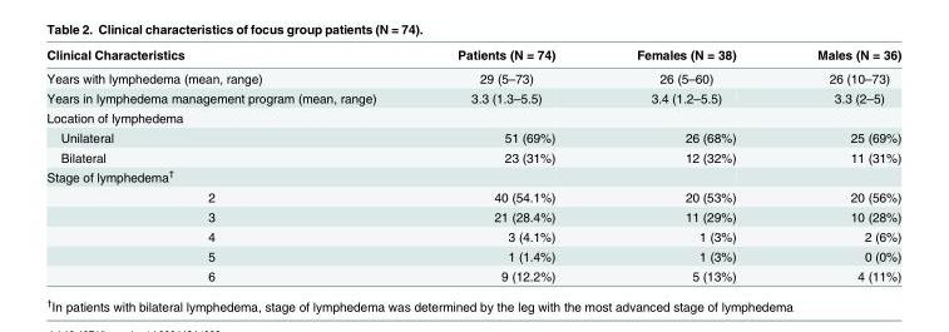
<table><thead><tr><td>Clinical Characteristics</td><td>Patients (N = 74)</td><td>Females (N = 38)</td><td>Males (N = 36)</td></tr></thead><tbody><tr><td>Years with lymphedema (mean, range)</td><td>29 (5–73)</td><td>26 (5–60)</td><td>26 (10–73)</td></tr><tr><td>Years in lymphedema management program (mean, range)</td><td>3.3 (1.3–5.5)</td><td>3.4 (1.2–5.5)</td><td>3.3 (2–5)</td></tr><tr><td colspan="4">Location of lymphedema</td></tr><tr><td>Unilateral</td><td>51 (69%)</td><td>26 (68%)</td><td>25 (69%)</td></tr><tr><td>Bilateral</td><td>23 (31%)</td><td>12 (32%)</td><td>11 (31%)</td></tr><tr><td colspan="4">Stage of lymphedema<sup>†</sup></td></tr><tr><td>2</td><td>40 (54.1%)</td><td>20 (53%)</td><td>20 (56%)</td></tr><tr><td>3</td><td>21 (28.4%)</td><td>11 (29%)</td><td>10 (28%)</td></tr><tr><td>4</td><td>3 (4.1%)</td><td>1 (3%)</td><td>2 (6%)</td></tr><tr><td>5</td><td>1 (1.4%)</td><td>1 (3%)</td><td>0 (0%)</td></tr><tr><td>6</td><td>9 (12.2%)</td><td>5 (13%)</td><td>4 (11%)</td></tr></tbody></table>